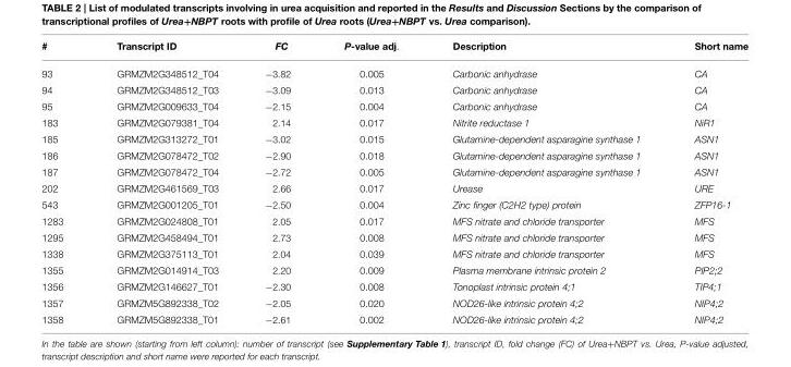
<table><thead><tr><td>#</td><td>Transcript ID</td><td>FC</td><td>P-value adj.</td><td>Description</td><td>Short name</td></tr></thead><tbody><tr><td>93</td><td>GRMZM2G348512_T04</td><td>−3.82</td><td>0.005</td><td>Carbonic anhydrase</td><td>CA</td></tr><tr><td>94</td><td>GRMZM2G348512_T03</td><td>−3.09</td><td>0.013</td><td>Carbonic anhydrase</td><td>CA</td></tr><tr><td>95</td><td>GRMZM2G009633_T04</td><td>−2.15</td><td>0.004</td><td>Carbonic anhydrase</td><td>CA</td></tr><tr><td>183</td><td>GRMZM2G079381_T04</td><td>2.14</td><td>0.017</td><td>Nitrite reductase 1</td><td>NiR1</td></tr><tr><td>185</td><td>GRMZM2G313272_T01</td><td>−3.02</td><td>0.015</td><td>Glutamine-dependent asparagine synthase 1</td><td>ASN1</td></tr><tr><td>186</td><td>GRMZM2G078472_T02</td><td>−2.90</td><td>0.018</td><td>Glutamine-dependent asparagine synthase 1</td><td>ASN1</td></tr><tr><td>187</td><td>GRMZM2G078472_T04</td><td>−2.72</td><td>0.005</td><td>Glutamine-dependent asparagine synthase 1</td><td>ASN1</td></tr><tr><td>202</td><td>GRMZM2G461569_T03</td><td>2.66</td><td>0.017</td><td>Urease</td><td>URE</td></tr><tr><td>543</td><td>GRMZM2G001205_T01</td><td>−2.50</td><td>0.004</td><td>Zinc finger (C2H2 type) protein</td><td>ZFP16-1</td></tr><tr><td>1283</td><td>GRMZM2G024808_T01</td><td>2.05</td><td>0.017</td><td>MFS nitrate and chloride transporter</td><td>MFS</td></tr><tr><td>1295</td><td>GRMZM2G458494_T01</td><td>2.73</td><td>0.008</td><td>MFS nitrate and chloride transporter</td><td>MFS</td></tr><tr><td>1338</td><td>GRMZM2G375113_T01</td><td>2.04</td><td>0.039</td><td>MFS nitrate and chloride transporter</td><td>MFS</td></tr><tr><td>1355</td><td>GRMZM2G014914_T03</td><td>2.20</td><td>0.009</td><td>Plasma membrane intrinsic protein 2</td><td>PIP2;2</td></tr><tr><td>1356</td><td>GRMZM2G146627_T01</td><td>−2.30</td><td>0.008</td><td>Tonoplast intrinsic protein 4;1</td><td>TIP4;1</td></tr><tr><td>1357</td><td>GRMZM5G892338_T02</td><td>−2.05</td><td>0.020</td><td>NOD26-like intrinsic protein 4;2</td><td>NIP4;2</td></tr><tr><td>1358</td><td>GRMZM5G892338_T01</td><td>−2.61</td><td>0.002</td><td>NOD26-like intrinsic protein 4;2</td><td>NIP4;2</td></tr></tbody></table>